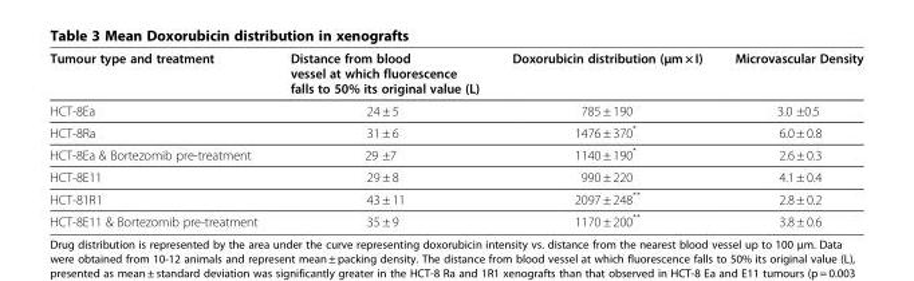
<table><thead><tr><td>Tumour type and treatment</td><td>Distance from blood vessel at which fluorescence falls to 50% its original value (L)</td><td>Doxorubicin distribution (μm × I)</td><td>Microvascular Density</td></tr></thead><tbody><tr><td>HCT-8Ea</td><td>24 ± 5</td><td>785 ± 190</td><td>3.0 ±0.5</td></tr><tr><td>HCT-8Ra</td><td>31 ± 6</td><td>1476 ± 370*</td><td>6.0 ± 0.8</td></tr><tr><td>HCT-8Ea &amp; Bortezomib pre-treatment</td><td>29 ±7</td><td>1140 ± 190*</td><td>2.6 ± 0.3</td></tr><tr><td>HCT-8E11</td><td>29 ± 8</td><td>990 ± 220</td><td>4.1 ± 0.4</td></tr><tr><td>HCT-81R1</td><td>43 ± 11</td><td>2097 ± 248**</td><td>2.8 ± 0.2</td></tr><tr><td>HCT-8E11 &amp; Bortezomib pre-treatment</td><td>35 ± 9</td><td>1170 ± 200**</td><td>3.8 ± 0.6</td></tr></tbody></table>